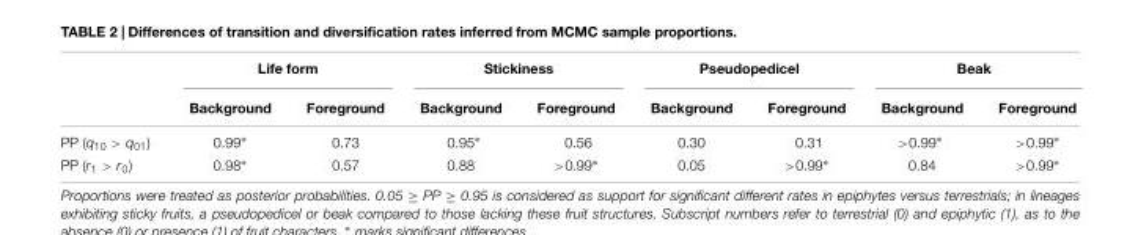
<table><thead><tr><td rowspan="2"></td><td colspan="2">Life form</td><td colspan="2">Stickiness</td><td colspan="2">Pseudopedicel</td><td colspan="2">Beak</td></tr><tr><td>Background</td><td>Foreground</td><td>Background</td><td>Foreground</td><td>Background</td><td>Foreground</td><td>Background</td><td>Foreground</td></tr></thead><tbody><tr><td>PP (q<sub>10</sub> &gt; q<sub>01</sub>)</td><td>0.99∗</td><td>0.73</td><td>0.95∗</td><td>0.56</td><td>0.30</td><td>0.31</td><td>&gt;0.99∗</td><td>&gt;0.99∗</td></tr><tr><td>PP (r<sub>1</sub> &gt; r<sub>0</sub>)</td><td>0.98∗</td><td>0.57</td><td>0.88</td><td>&gt;0.99∗</td><td>0.05</td><td>&gt;0.99∗</td><td>0.84</td><td>&gt;0.99∗</td></tr></tbody></table>